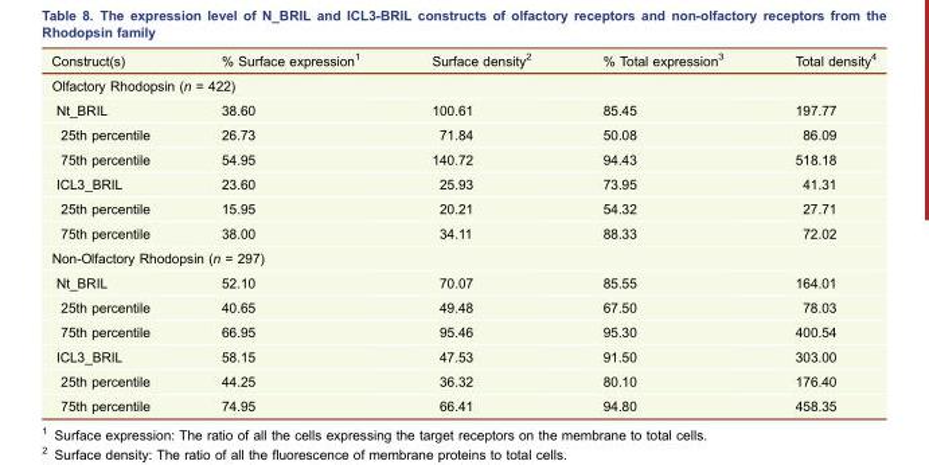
<table><thead><tr><td>Construct(s)</td><td>% Surface expression<sup>1</sup></td><td>Surface density<sup>2</sup></td><td>% Total expression<sup>3</sup></td><td>Total density<sup>4</sup></td></tr></thead><tbody><tr><td colspan="5">Olfactory Rhodopsin (n = 422)</td></tr><tr><td>Nt_BRIL</td><td>38.60</td><td>100.61</td><td>85.45</td><td>197.77</td></tr><tr><td>25th percentile</td><td>26.73</td><td>71.84</td><td>50.08</td><td>86.09</td></tr><tr><td>75th percentile</td><td>54.95</td><td>140.72</td><td>94.43</td><td>518.18</td></tr><tr><td>ICL3_BRIL</td><td>23.60</td><td>25.93</td><td>73.95</td><td>41.31</td></tr><tr><td>25th percentile</td><td>15.95</td><td>20.21</td><td>54.32</td><td>27.71</td></tr><tr><td>75th percentile</td><td>38.00</td><td>34.11</td><td>88.33</td><td>72.02</td></tr><tr><td colspan="5">Non-Olfactory Rhodopsin (n = 297)</td></tr><tr><td>Nt_BRIL</td><td>52.10</td><td>70.07</td><td>85.55</td><td>164.01</td></tr><tr><td>25th percentile</td><td>40.65</td><td>49.48</td><td>67.50</td><td>78.03</td></tr><tr><td>75th percentile</td><td>66.95</td><td>95.46</td><td>95.30</td><td>400.54</td></tr><tr><td>ICL3_BRIL</td><td>58.15</td><td>47.53</td><td>91.50</td><td>303.00</td></tr><tr><td>25th percentile</td><td>44.25</td><td>36.32</td><td>80.10</td><td>176.40</td></tr><tr><td>75th percentile</td><td>74.95</td><td>66.41</td><td>94.80</td><td>458.35</td></tr></tbody></table>